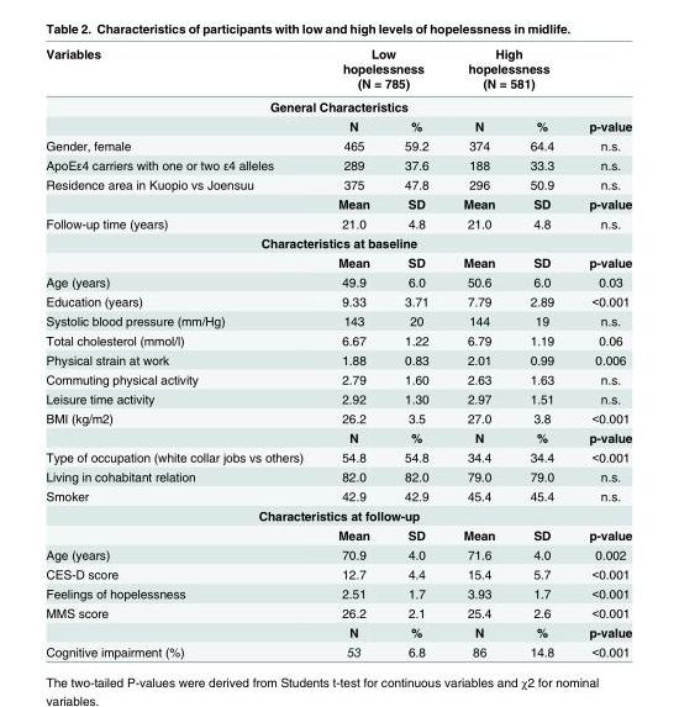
<table><thead><tr><td>Variables</td><td colspan="2">Low hopelessness (N = 785)</td><td colspan="2">High hopelessness (N = 581)</td><td></td></tr><tr><td colspan="6">General Characteristics</td></tr><tr><td></td><td>N</td><td>%</td><td>N</td><td>%</td><td>p-value</td></tr></thead><tbody><tr><td>Gender, female</td><td>465</td><td>59.2</td><td>374</td><td>64.4</td><td>n.s.</td></tr><tr><td>ApoEε4 carriers with one or two ε4 alleles</td><td>289</td><td>37.6</td><td>188</td><td>33.3</td><td>n.s.</td></tr><tr><td rowspan="2">Residence area in Kuopio vs Joensuu</td><td>375</td><td>47.8</td><td>296</td><td>50.9</td><td>n.s.</td></tr><tr><td>Mean</td><td>SD</td><td>Mean</td><td>SD</td><td>p-value</td></tr><tr><td>Follow-up time (years)</td><td>21.0</td><td>4.8</td><td>21.0</td><td>4.8</td><td>n.s.</td></tr><tr><td colspan="6">Characteristics at baseline</td></tr><tr><td></td><td>Mean</td><td>SD</td><td>Mean</td><td>SD</td><td>p-value</td></tr><tr><td>Age (years)</td><td>49.9</td><td>6.0</td><td>50.6</td><td>6.0</td><td>0.03</td></tr><tr><td>Education (years)</td><td>9.33</td><td>3.71</td><td>7.79</td><td>2.89</td><td>&lt;0.001</td></tr><tr><td>Systolic blood pressure (mm/Hg)</td><td>143</td><td>20</td><td>144</td><td>19</td><td>n.s.</td></tr><tr><td>Total cholesterol (mmol/l)</td><td>6.67</td><td>1.22</td><td>6.79</td><td>1.19</td><td>0.06</td></tr><tr><td>Physical strain at work</td><td>1.88</td><td>0.83</td><td>2.01</td><td>0.99</td><td>0.006</td></tr><tr><td>Commuting physical activity</td><td>2.79</td><td>1.60</td><td>2.63</td><td>1.63</td><td>n.s.</td></tr><tr><td>Leisure time activity</td><td>2.92</td><td>1.30</td><td>2.97</td><td>1.51</td><td>n.s.</td></tr><tr><td rowspan="2">BMI (kg/m2)</td><td>26.2</td><td>3.5</td><td>27.0</td><td>3.8</td><td>&lt;0.001</td></tr><tr><td>N</td><td>%</td><td>N</td><td>%</td><td>p-value</td></tr><tr><td>Type of occupation (white collar jobs vs others)</td><td>54.8</td><td>54.8</td><td>34.4</td><td>34.4</td><td>&lt;0.001</td></tr><tr><td>Living in cohabitant relation</td><td>82.0</td><td>82.0</td><td>79.0</td><td>79.0</td><td>n.s.</td></tr><tr><td>Smoker</td><td>42.9</td><td>42.9</td><td>45.4</td><td>45.4</td><td>n.s.</td></tr><tr><td colspan="6">Characteristics at follow-up</td></tr><tr><td></td><td>Mean</td><td>SD</td><td>Mean</td><td>SD</td><td>p-value</td></tr><tr><td>Age (years)</td><td>70.9</td><td>4.0</td><td>71.6</td><td>4.0</td><td>0.002</td></tr><tr><td>CES-D score</td><td>12.7</td><td>4.4</td><td>15.4</td><td>5.7</td><td>&lt;0.001</td></tr><tr><td>Feelings of hopelessness</td><td>2.51</td><td>1.7</td><td>3.93</td><td>1.7</td><td>&lt;0.001</td></tr><tr><td rowspan="2">MMS score</td><td>26.2</td><td>2.1</td><td>25.4</td><td>2.6</td><td>&lt;0.001</td></tr><tr><td>N</td><td>%</td><td>N</td><td>%</td><td>p-value</td></tr><tr><td>Cognitive impairment (%)</td><td>53</td><td>6.8</td><td>86</td><td>14.8</td><td>&lt;0.001</td></tr></tbody></table>